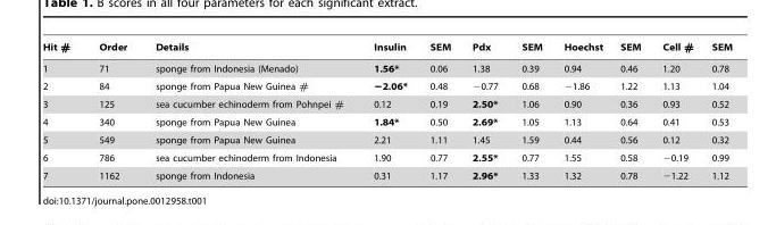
<table><thead><tr><td>Hit #</td><td>Order</td><td>Details</td><td>Insulin</td><td>SEM</td><td>Pdx</td><td>SEM</td><td>Hoechst</td><td>SEM</td><td>Cell #</td><td>SEM</td></tr></thead><tbody><tr><td>1</td><td>71</td><td>sponge from Indonesia (Menado)</td><td>1.56*</td><td>0.06</td><td>1.38</td><td>0.39</td><td>0.94</td><td>0.46</td><td>1.20</td><td>0.78</td></tr><tr><td>2</td><td>84</td><td>sponge from Papua New Guinea #</td><td>−2.06*</td><td>0.48</td><td>−0.77</td><td>0.68</td><td>−1.86</td><td>1.22</td><td>1.13</td><td>1.04</td></tr><tr><td>3</td><td>125</td><td>sea cucumber echinoderm from Pohnpei #</td><td>0.12</td><td>0.19</td><td>2.50*</td><td>1.06</td><td>0.90</td><td>0.36</td><td>0.93</td><td>0.52</td></tr><tr><td>4</td><td>340</td><td>sponge from Papua New Guinea</td><td>1.84*</td><td>0.50</td><td>2.69*</td><td>1.05</td><td>1.13</td><td>0.64</td><td>0.41</td><td>0.53</td></tr><tr><td>5</td><td>549</td><td>sponge from Papua New Guinea</td><td>2.21</td><td>1.11</td><td>1.45</td><td>1.59</td><td>0.44</td><td>0.56</td><td>0.12</td><td>0.32</td></tr><tr><td>6</td><td>786</td><td>sea cucumber echinoderm from Indonesia</td><td>1.90</td><td>0.77</td><td>2.55*</td><td>0.77</td><td>1.55</td><td>0.58</td><td>−0.19</td><td>0.99</td></tr><tr><td>7</td><td>1162</td><td>sponge from Indonesia</td><td>0.31</td><td>1.17</td><td>2.96*</td><td>1.33</td><td>1.32</td><td>0.78</td><td>−1.22</td><td>1.12</td></tr></tbody></table>